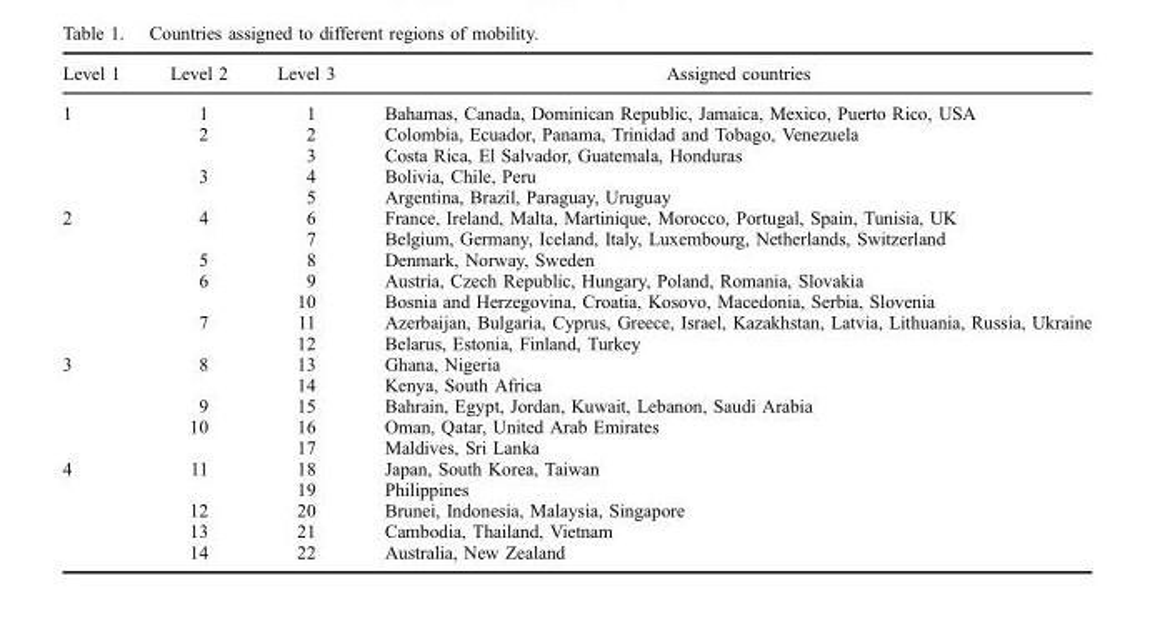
<table><thead><tr><td>Level 1</td><td>Level 2</td><td>Level 3</td><td>Assigned countries</td></tr></thead><tbody><tr><td rowspan="5">1</td><td>1</td><td>1</td><td>Bahamas, Canada, Dominican Republic, Jamaica, Mexico, Puerto Rico, USA</td></tr><tr><td rowspan="2">2</td><td>2</td><td>Colombia, Ecuador, Panama, Trinidad and Tobago, Venezuela</td></tr><tr><td>3</td><td>Costa Rica, El Salvador, Guatemala, Honduras</td></tr><tr><td rowspan="2">3</td><td>4</td><td>Bolivia, Chile, Peru</td></tr><tr><td>5</td><td>Argentina, Brazil, Paraguay, Uruguay</td></tr><tr><td rowspan="7">2</td><td rowspan="2">4</td><td>6</td><td>France, Ireland, Malta, Martinique, Morocco, Portugal, Spain, Tunisia, UK</td></tr><tr><td>7</td><td>Belgium, Germany, Iceland, Italy, Luxembourg, Netherlands, Switzerland</td></tr><tr><td>5</td><td>8</td><td>Denmark, Norway, Sweden</td></tr><tr><td rowspan="2">6</td><td>9</td><td>Austria, Czech Republic, Hungary, Poland, Romania, Slovakia</td></tr><tr><td>10</td><td>Bosnia and Herzegovina, Croatia, Kosovo, Macedonia, Serbia, Slovenia</td></tr><tr><td rowspan="2">7</td><td>11</td><td>Azerbaijan, Bulgaria, Cyprus, Greece, Israel, Kazakhstan, Latvia, Lithuania, Russia, Ukraine</td></tr><tr><td>12</td><td>Belarus, Estonia, Finland, Turkey</td></tr><tr><td rowspan="5">3</td><td rowspan="2">8</td><td>13</td><td>Ghana, Nigeria</td></tr><tr><td>14</td><td>Kenya, South Africa</td></tr><tr><td>9</td><td>15</td><td>Bahrain, Egypt, Jordan, Kuwait, Lebanon, Saudi Arabia</td></tr><tr><td rowspan="2">10</td><td>16</td><td>Oman, Qatar, United Arab Emirates</td></tr><tr><td>17</td><td>Maldives, Sri Lanka</td></tr><tr><td rowspan="5">4</td><td rowspan="2">11</td><td>18</td><td>Japan, South Korea, Taiwan</td></tr><tr><td>19</td><td>Philippines</td></tr><tr><td>12</td><td>20</td><td>Brunei, Indonesia, Malaysia, Singapore</td></tr><tr><td>13</td><td>21</td><td>Cambodia, Thailand, Vietnam</td></tr><tr><td>14</td><td>22</td><td>Australia, New Zealand</td></tr></tbody></table>